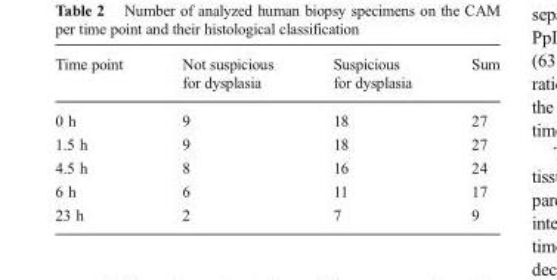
<table><thead><tr><td>Time point</td><td>Not suspicious for dysplasia</td><td>Suspicious for dysplasia</td><td>Sum</td></tr></thead><tbody><tr><td>0 h</td><td>9</td><td>18</td><td>27</td></tr><tr><td>1.5 h</td><td>9</td><td>18</td><td>27</td></tr><tr><td>4.5 h</td><td>8</td><td>16</td><td>24</td></tr><tr><td>6 h</td><td>6</td><td>11</td><td>17</td></tr><tr><td>23 h</td><td>2</td><td>7</td><td>9</td></tr></tbody></table>